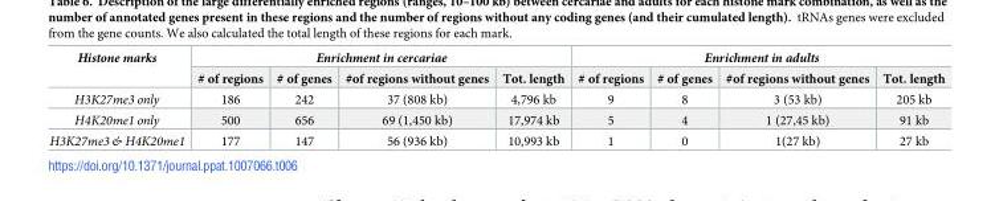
<table><thead><tr><td rowspan="2">Histone marks</td><td colspan="4">Enrichment in cercariae</td><td colspan="4">Enrichment in adults</td></tr><tr><td># of regions</td><td># of genes</td><td>#of regions without genes</td><td>Tot. length</td><td># of regions</td><td># of genes</td><td>#of regions without genes</td><td>Tot. length</td></tr></thead><tbody><tr><td>H3K27me3 only</td><td>186</td><td>242</td><td>37 (808 kb)</td><td>4,796 kb</td><td>9</td><td>8</td><td>3 (53 kb)</td><td>205 kb</td></tr><tr><td>H4K20me1 only</td><td>500</td><td>656</td><td>69 (1,450 kb)</td><td>17,974 kb</td><td>5</td><td>4</td><td>1 (27,45 kb)</td><td>91 kb</td></tr><tr><td>H3K27me3 &amp; H4K20me1</td><td>177</td><td>147</td><td>56 (936 kb)</td><td>10,993 kb</td><td>1</td><td>0</td><td>1(27 kb)</td><td>27 kb</td></tr></tbody></table>